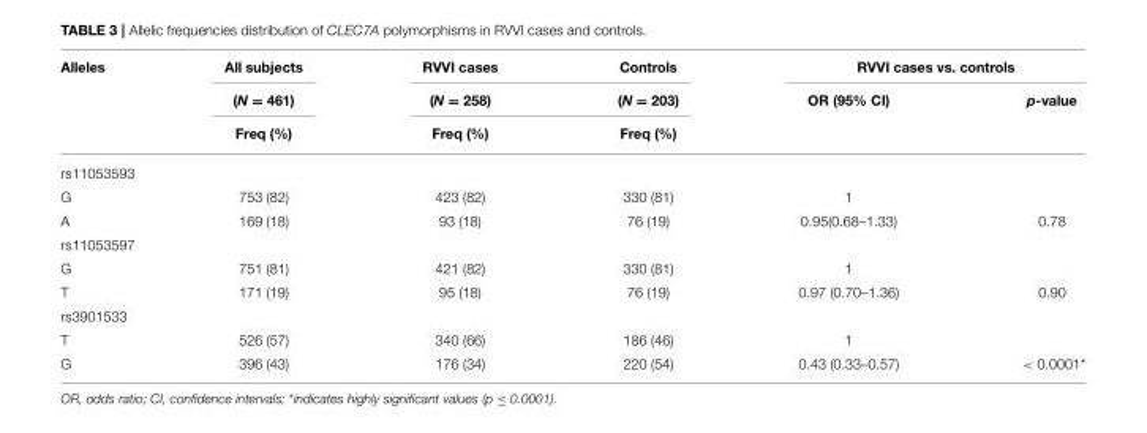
<table><thead><tr><td rowspan="3">Alleles</td><td rowspan="3">All subjects (N = 461) Freq (%)</td><td rowspan="3">RVVI cases (N = 258) Freq (%)</td><td rowspan="3">Controls (N = 203) Freq (%)</td><td colspan="2">RVVI cases vs. controls</td></tr><tr><td rowspan="2">OR (95% CI)</td><td rowspan="2">p-value</td></tr><tr></tr></thead><tbody><tr><td colspan="6">rs11053593</td></tr><tr><td>G</td><td>753 (82)</td><td>423 (82)</td><td>330 (81)</td><td>1</td><td></td></tr><tr><td>A</td><td>169 (18)</td><td>93 (18)</td><td>76 (19)</td><td>0.95(0.68–1.33)</td><td>0.78</td></tr><tr><td colspan="6">rs11053597</td></tr><tr><td>G</td><td>751 (81)</td><td>421 (82)</td><td>330 (81)</td><td>1</td><td></td></tr><tr><td>T</td><td>171 (19)</td><td>95 (18)</td><td>76 (19)</td><td>0.97 (0.70–1.36)</td><td>0.90</td></tr><tr><td colspan="6">rs3901533</td></tr><tr><td>T</td><td>526 (57)</td><td>340 (66)</td><td>186 (46)</td><td>1</td><td></td></tr><tr><td>G</td><td>396 (43)</td><td>176 (34)</td><td>220 (54)</td><td>0.43 (0.33–0.57)</td><td>&lt; 0.0001*</td></tr></tbody></table>